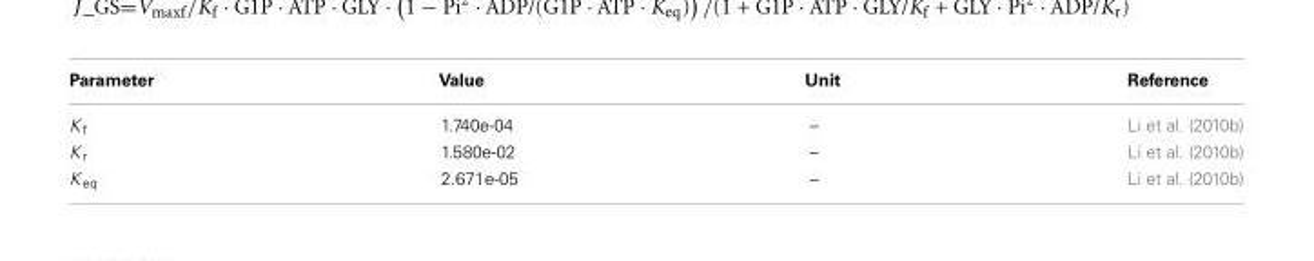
<table><thead><tr><td>Parameter</td><td>Value</td><td>Unit</td><td>Reference</td></tr></thead><tbody><tr><td>K <sub>f</sub></td><td>1.740e-04</td><td>–</td><td>Li et al. (2010b)</td></tr><tr><td>K <sub>r</sub></td><td>1.580e-02</td><td>–</td><td>Li et al. (2010b)</td></tr><tr><td>K <sub>eq</sub></td><td>2.671e-05</td><td>–</td><td>Li et al. (2010b)</td></tr></tbody></table>